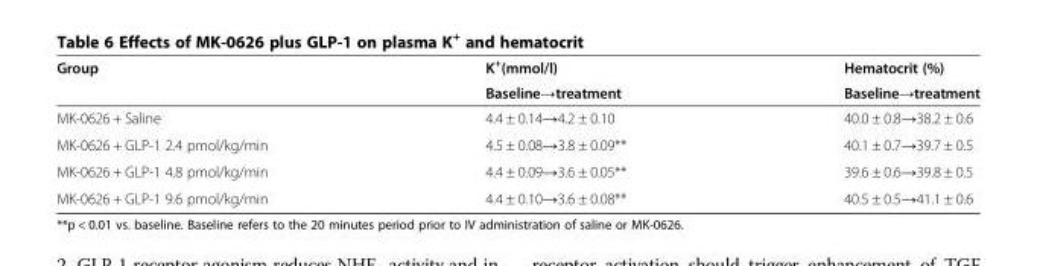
<table><thead><tr><td rowspan="2">Group</td><td rowspan="2">K<sup>+</sup>(mmol/l) Baseline→treatment</td><td rowspan="2">Hematocrit (%) Baseline→treatment</td></tr><tr></tr></thead><tbody><tr><td>MK-0626 + Saline</td><td>4.4 ± 0.14→4.2 ± 0.10</td><td>40.0 ± 0.8→38.2 ± 0.6</td></tr><tr><td>MK-0626 + GLP-1 2.4 pmol/kg/min</td><td>4.5 ± 0.08→3.8 ± 0.09**</td><td>40.1 ± 0.7→39.7 ± 0.5</td></tr><tr><td>MK-0626 + GLP-1 4.8 pmol/kg/min</td><td>4.4 ± 0.09→3.6 ± 0.05**</td><td>39.6 ± 0.6→39.8 ± 0.5</td></tr><tr><td>MK-0626 + GLP-1 9.6 pmol/kg/min</td><td>4.4 ± 0.10→3.6 ± 0.08**</td><td>40.5 ± 0.5→41.1 ± 0.6</td></tr></tbody></table>